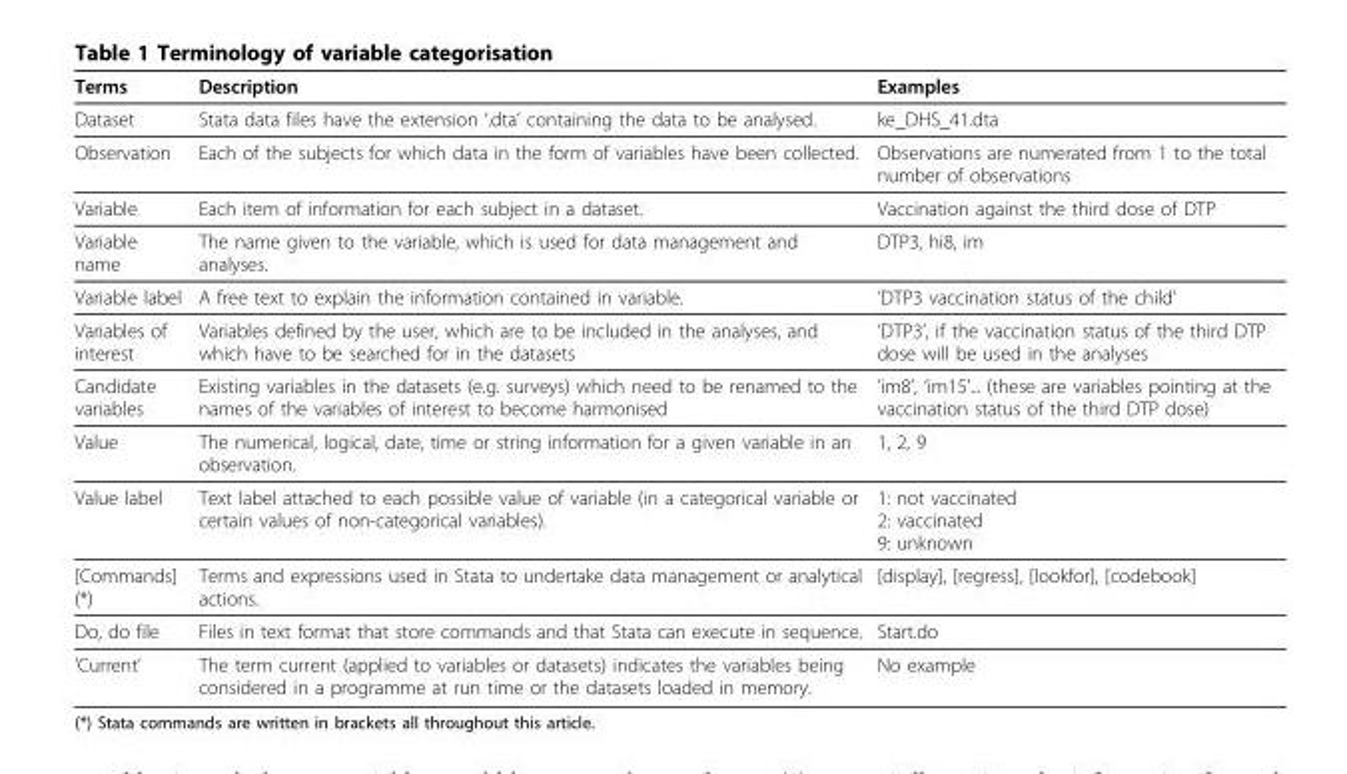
<table><thead><tr><td>Terms</td><td>Description</td><td>Examples</td></tr></thead><tbody><tr><td>Dataset</td><td>Stata data files have the extension ‘.dta’ containing the data to be analysed.</td><td>ke_DHS_41.dta</td></tr><tr><td>Observation</td><td>Each of the subjects for which data in the form of variables have been collected.</td><td>Observations are numerated from 1 to the total number of observations</td></tr><tr><td>Variable</td><td>Each item of information for each subject in a dataset.</td><td>Vaccination against the third dose of DTP</td></tr><tr><td>Variable name</td><td>The name given to the variable, which is used for data management and analyses.</td><td>DTP3, hi8, im</td></tr><tr><td>Variable label</td><td>A free text to explain the information contained in variable.</td><td>’DTP3 vaccination status of the child’</td></tr><tr><td>Variables of interest</td><td>Variables defined by the user, which are to be included in the analyses, and which have to be searched for in the datasets</td><td>’DTP3’, if the vaccination status of the third DTP dose will be used in the analyses</td></tr><tr><td>Candidate variables</td><td>Existing variables in the datasets (e.g. surveys) which need to be renamed to the names of the variables of interest to become harmonised</td><td>’im8’, ‘im15’... (these are variables pointing at the vaccination status of the third DTP dose)</td></tr><tr><td>Value</td><td>The numerical, logical, date, time or string information for a given variable in an observation.</td><td>1, 2, 9</td></tr><tr><td>Value label</td><td>Text label attached to each possible value of variable (in a categorical variable or certain values of non-categorical variables).</td><td>1: not vaccinated 2: vaccinated 9: unknown</td></tr><tr><td>[Commands] (*)</td><td>Terms and expressions used in Stata to undertake data management or analytical actions.</td><td>[display], [regress], [lookfor], [codebook]</td></tr><tr><td>Do, do file</td><td>Files in text format that store commands and that Stata can execute in sequence.</td><td>Start.do</td></tr><tr><td>’Current’</td><td>The term current (applied to variables or datasets) indicates the variables being considered in a programme at run time or the datasets loaded in memory.</td><td>No example</td></tr></tbody></table>